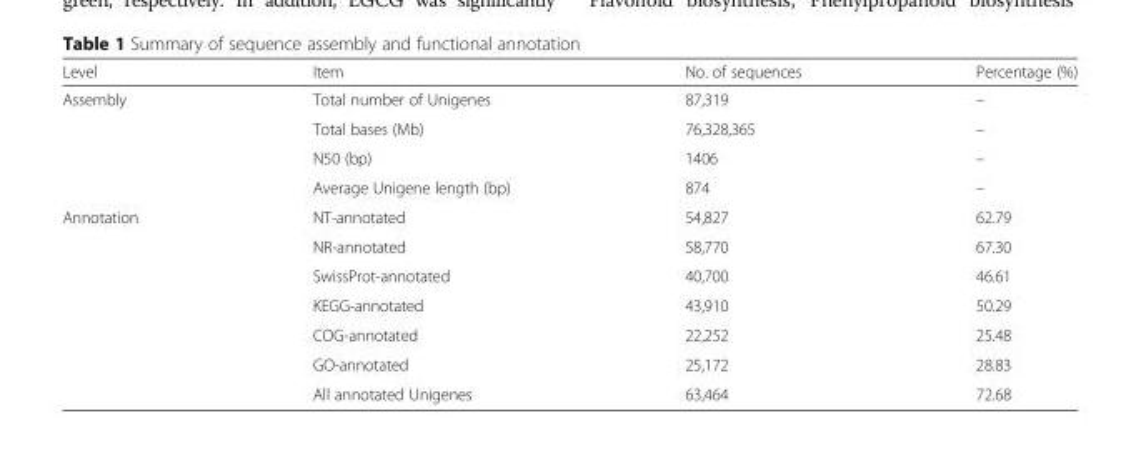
<table><thead><tr><td>Level</td><td>Item</td><td>No. of sequences</td><td>Percentage (%)</td></tr></thead><tbody><tr><td rowspan="4">Assembly</td><td>Total number of Unigenes</td><td>87,319</td><td>–</td></tr><tr><td>Total bases (Mb)</td><td>76,328,365</td><td>–</td></tr><tr><td>N50 (bp)</td><td>1406</td><td>–</td></tr><tr><td>Average Unigene length (bp)</td><td>874</td><td>–</td></tr><tr><td rowspan="7">Annotation</td><td>NT-annotated</td><td>54,827</td><td>62.79</td></tr><tr><td>NR-annotated</td><td>58,770</td><td>67.30</td></tr><tr><td>SwissProt-annotated</td><td>40,700</td><td>46.61</td></tr><tr><td>KEGG-annotated</td><td>43,910</td><td>50.29</td></tr><tr><td>COG-annotated</td><td>22,252</td><td>25.48</td></tr><tr><td>GO-annotated</td><td>25,172</td><td>28.83</td></tr><tr><td>All annotated Unigenes</td><td>63,464</td><td>72.68</td></tr></tbody></table>